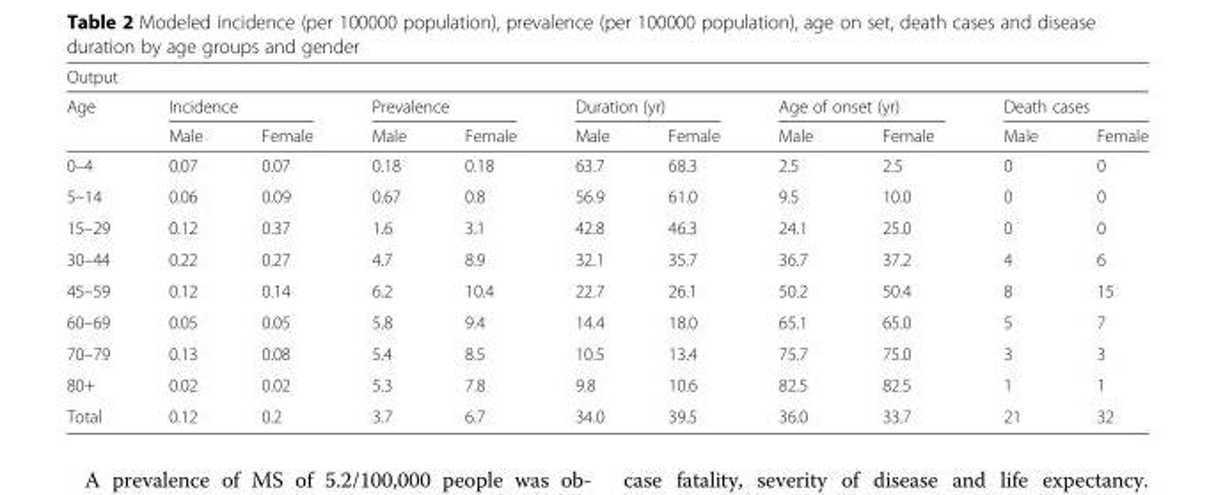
<table><thead><tr><td colspan="11">Output</td></tr><tr><td rowspan="2">Age</td><td colspan="2">Incidence</td><td colspan="2">Prevalence</td><td colspan="2">Duration (yr)</td><td colspan="2">Age of onset (yr)</td><td colspan="2">Death cases</td></tr><tr><td>Male</td><td>Female</td><td>Male</td><td>Female</td><td>Male</td><td>Female</td><td>Male</td><td>Female</td><td>Male</td><td>Female</td></tr></thead><tbody><tr><td>0–4</td><td>0.07</td><td>0.07</td><td>0.18</td><td>0.18</td><td>63.7</td><td>68.3</td><td>2.5</td><td>2.5</td><td>0</td><td>0</td></tr><tr><td>5–14</td><td>0.06</td><td>0.09</td><td>0.67</td><td>0.8</td><td>56.9</td><td>61.0</td><td>9.5</td><td>10.0</td><td>0</td><td>0</td></tr><tr><td>15–29</td><td>0.12</td><td>0.37</td><td>1.6</td><td>3.1</td><td>42.8</td><td>46.3</td><td>24.1</td><td>25.0</td><td>0</td><td>0</td></tr><tr><td>30–44</td><td>0.22</td><td>0.27</td><td>4.7</td><td>8.9</td><td>32.1</td><td>35.7</td><td>36.7</td><td>37.2</td><td>4</td><td>6</td></tr><tr><td>45–59</td><td>0.12</td><td>0.14</td><td>6.2</td><td>10.4</td><td>22.7</td><td>26.1</td><td>50.2</td><td>50.4</td><td>8</td><td>15</td></tr><tr><td>60–69</td><td>0.05</td><td>0.05</td><td>5.8</td><td>9.4</td><td>14.4</td><td>18.0</td><td>65.1</td><td>65.0</td><td>5</td><td>7</td></tr><tr><td>70–79</td><td>0.13</td><td>0.08</td><td>5.4</td><td>8.5</td><td>10.5</td><td>13.4</td><td>75.7</td><td>75.0</td><td>3</td><td>3</td></tr><tr><td>80+</td><td>0.02</td><td>0.02</td><td>5.3</td><td>7.8</td><td>9.8</td><td>10.6</td><td>82.5</td><td>82.5</td><td>1</td><td>1</td></tr><tr><td>Total</td><td>0.12</td><td>0.2</td><td>3.7</td><td>6.7</td><td>34.0</td><td>39.5</td><td>36.0</td><td>33.7</td><td>21</td><td>32</td></tr></tbody></table>